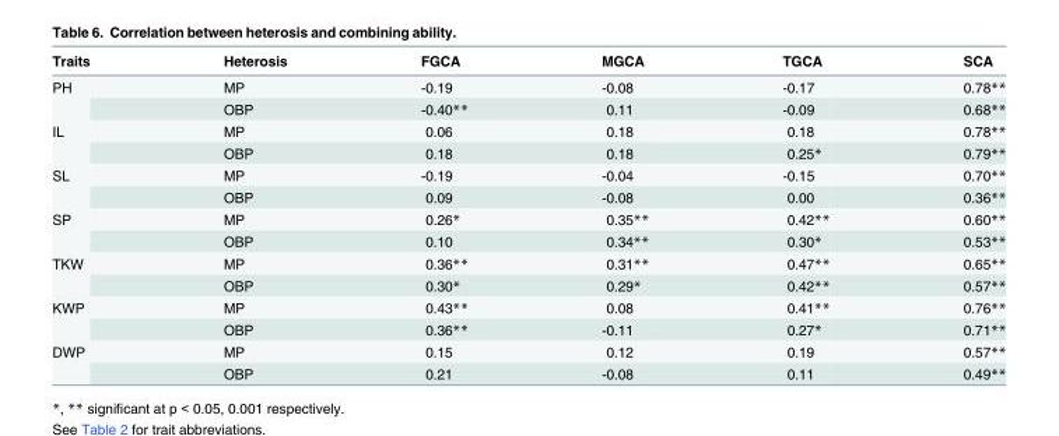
<table><thead><tr><td>Traits</td><td>Heterosis</td><td>FGCA</td><td>MGCA</td><td>TGCA</td><td>SCA</td></tr></thead><tbody><tr><td rowspan="2">PH</td><td>MP</td><td>-0.19</td><td>-0.08</td><td>-0.17</td><td>0.78**</td></tr><tr><td>OBP</td><td>-0.40**</td><td>0.11</td><td>-0.09</td><td>0.68**</td></tr><tr><td rowspan="2">IL</td><td>MP</td><td>0.06</td><td>0.18</td><td>0.18</td><td>0.78**</td></tr><tr><td>OBP</td><td>0.18</td><td>0.18</td><td>0.25*</td><td>0.79**</td></tr><tr><td rowspan="2">SL</td><td>MP</td><td>-0.19</td><td>-0.04</td><td>-0.15</td><td>0.70**</td></tr><tr><td>OBP</td><td>0.09</td><td>-0.08</td><td>0.00</td><td>0.36**</td></tr><tr><td rowspan="2">SP</td><td>MP</td><td>0.26*</td><td>0.35**</td><td>0.42**</td><td>0.60**</td></tr><tr><td>OBP</td><td>0.10</td><td>0.34**</td><td>0.30*</td><td>0.53**</td></tr><tr><td rowspan="2">TKW</td><td>MP</td><td>0.36**</td><td>0.31**</td><td>0.47**</td><td>0.65**</td></tr><tr><td>OBP</td><td>0.30*</td><td>0.29*</td><td>0.42**</td><td>0.57**</td></tr><tr><td rowspan="2">KWP</td><td>MP</td><td>0.43**</td><td>0.08</td><td>0.41**</td><td>0.76**</td></tr><tr><td>OBP</td><td>0.36**</td><td>-0.11</td><td>0.27*</td><td>0.71**</td></tr><tr><td rowspan="2">DWP</td><td>MP</td><td>0.15</td><td>0.12</td><td>0.19</td><td>0.57**</td></tr><tr><td>OBP</td><td>0.21</td><td>-0.08</td><td>0.11</td><td>0.49**</td></tr></tbody></table>